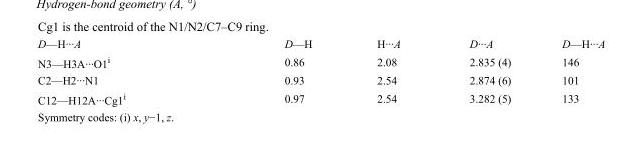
<table><tbody><tr><td>D—H···A</td><td>D—H</td><td>H···A</td><td>D···A</td><td>D—H···A</td></tr><tr><td>N3—H3A···O1<sup>i</sup></td><td>0.86</td><td>2.08</td><td>2.835 (4)</td><td>146</td></tr><tr><td>C2—H2···N1</td><td>0.93</td><td>2.54</td><td>2.874 (6)</td><td>101</td></tr><tr><td>C12—H12A···Cg1<sup>i</sup></td><td>0.97</td><td>2.54</td><td>3.282 (5)</td><td>133</td></tr></tbody></table>